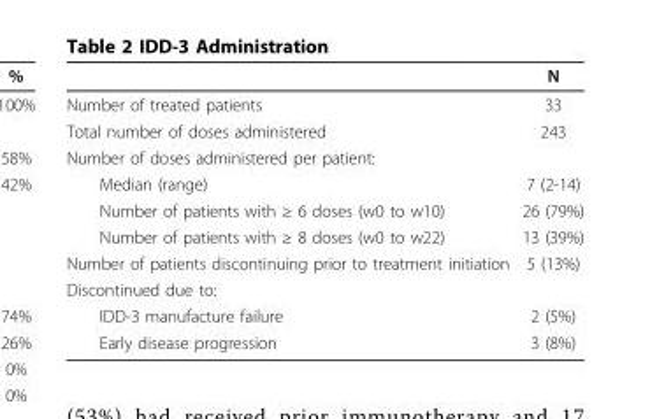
<table><thead><tr><td></td><td>N</td></tr></thead><tbody><tr><td>Number of treated patients</td><td>33</td></tr><tr><td>Total number of doses administered</td><td>243</td></tr><tr><td colspan="2">Number of doses administered per patient:</td></tr><tr><td>Median (range)</td><td>7 (2-14)</td></tr><tr><td>Number of patients with ≥ 6 doses (w0 to w10)</td><td>26 (79%)</td></tr><tr><td>Number of patients with ≥ 8 doses (w0 to w22)</td><td>13 (39%)</td></tr><tr><td>Number of patients discontinuing prior to treatment initiation</td><td>5 (13%)</td></tr><tr><td colspan="2">Discontinued due to:</td></tr><tr><td>IDD-3 manufacture failure</td><td>2 (5%)</td></tr><tr><td>Early disease progression</td><td>3 (8%)</td></tr></tbody></table>